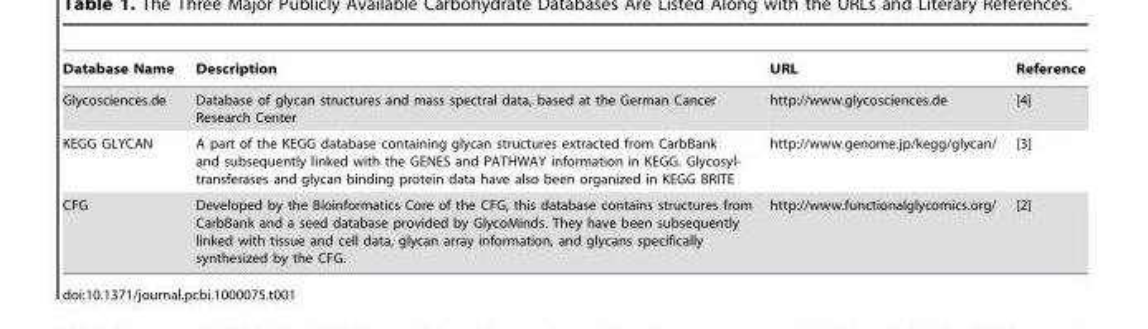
<table><thead><tr><td>Database Name</td><td>Description</td><td>URL</td><td>Reference</td></tr></thead><tbody><tr><td>Glycosciences.de</td><td>Database of glycan structures and mass spectral data, based at the German Cancer Research Center</td><td>http://www.glycosciences.de</td><td>[4]</td></tr><tr><td>KEGG GLYCAN</td><td>A part of the KEGG database containing glycan structures extracted from CarbBank and subsequently linked with the GENES and PATHWAY information in KEGG. Glycosyl- transferases and glycan binding protein data have also been organized in KEGG BRITE</td><td>http://www.genome.jp/kegg/glycan/</td><td>[3]</td></tr><tr><td>CFG</td><td>Developed by the Bioinformatics Core of the CFG, this database contains structures from CarbBank and a seed database provided by GlycoMinds. They have been subsequently linked with tissue and cell data, glycan array information, and glycans specifically synthesized by the CFG.</td><td>http://www.functionalglycomics.org/</td><td>[2]</td></tr></tbody></table>